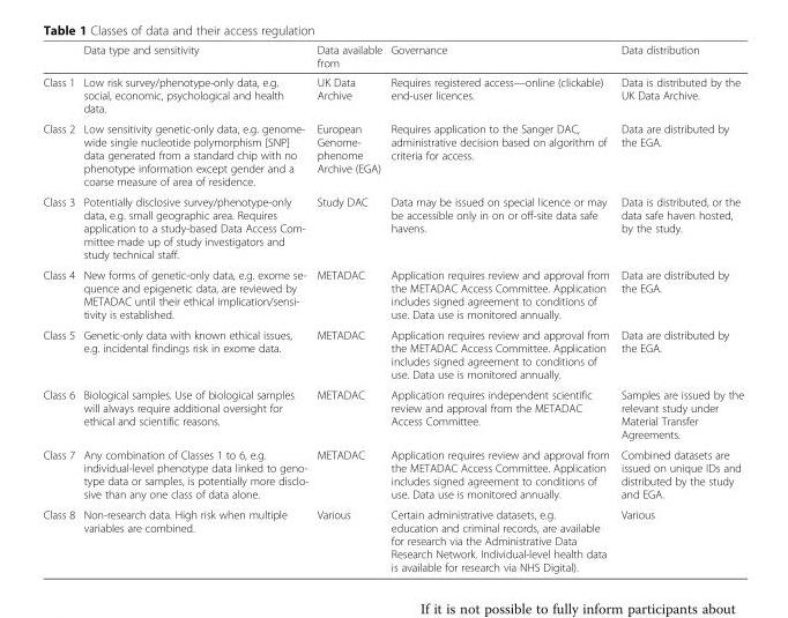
<table><thead><tr><td></td><td>Data type and sensitivity</td><td>Data available from</td><td>Governance</td><td>Data distribution</td></tr></thead><tbody><tr><td>Class 1</td><td>Low risk survey/phenotype-only data, e.g. social, economic, psychological and health data.</td><td>UK Data Archive</td><td>Requires registered access—online (clickable) end-user licences.</td><td>Data is distributed by the UK Data Archive.</td></tr><tr><td>Class 2</td><td>Low sensitivity genetic-only data, e.g. genome- wide single nucleotide polymorphism [SNP] data generated from a standard chip with no phenotype information except gender and a coarse measure of area of residence.</td><td>European Genome- phenome Archive (EGA)</td><td>Requires application to the Sanger DAC, administrative decision based on algorithm of criteria for access.</td><td>Data are distributed by the EGA.</td></tr><tr><td>Class 3</td><td>Potentially disclosive survey/phenotype-only data, e.g. small geographic area. Requires application to a study-based Data Access Com- mittee made up of study investigators and study technical staff.</td><td>Study DAC</td><td>Data may be issued on special licence or may be accessible only in on or off-site data safe havens.</td><td>Data is distributed, or the data safe haven hosted, by the study.</td></tr><tr><td>Class 4</td><td>New forms of genetic-only data, e.g. exome se- quence and epigenetic data, are reviewed by METADAC until their ethical implication/sensi- tivity is established.</td><td>METADAC</td><td>Application requires review and approval from the METADAC Access Committee. Application includes signed agreement to conditions of use. Data use is monitored annually.</td><td>Data are distributed by the EGA.</td></tr><tr><td>Class 5</td><td>Genetic-only data with known ethical issues, e.g. incidental findings risk in exome data.</td><td>METADAC</td><td>Application requires review and approval from the METADAC Access Committee. Application includes signed agreement to conditions of use. Data use is monitored annually.</td><td>Data are distributed by the EGA.</td></tr><tr><td>Class 6</td><td>Biological samples. Use of biological samples will always require additional oversight for ethical and scientific reasons.</td><td>METADAC</td><td>Application requires independent scientific review and approval from the METADAC Access Committee.</td><td>Samples are issued by the relevant study under Material Transfer Agreements.</td></tr><tr><td>Class 7</td><td>Any combination of Classes 1 to 6, e.g. individual-level phenotype data linked to geno- type data or samples, is potentially more disclo- sive than any one class of data alone.</td><td>METADAC</td><td>Application requires review and approval from the METADAC Access Committee. Application includes signed agreement to conditions of use. Data use is monitored annually.</td><td>Combined datasets are issued on unique IDs and distributed by the study and EGA.</td></tr><tr><td>Class 8</td><td>Non-research data. High risk when multiple variables are combined.</td><td>Various</td><td>Certain administrative datasets, e.g. education and criminal records, are available for research via the Administrative Data Research Network. Individual-level health data is available for research via NHS Digital).</td><td>Various</td></tr></tbody></table>